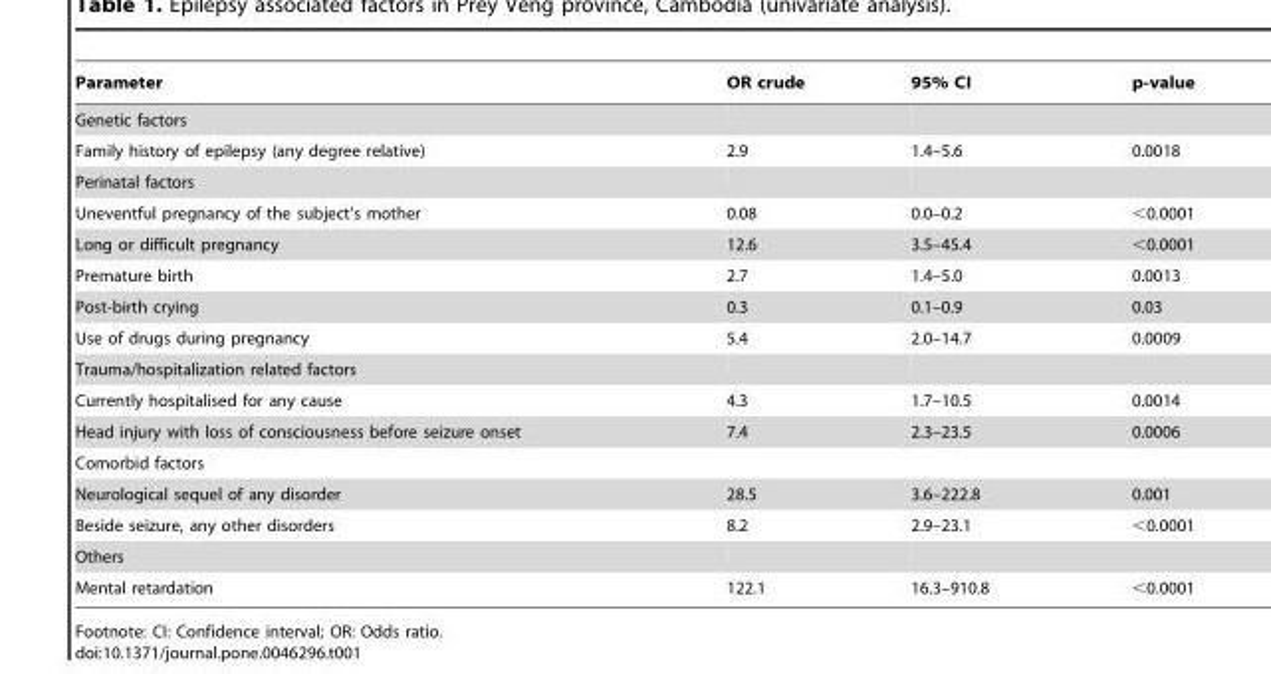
<table><thead><tr><td>Parameter</td><td>OR crude</td><td>95% CI</td><td>p-value</td></tr></thead><tbody><tr><td colspan="4">Genetic factors</td></tr><tr><td>Family history of epilepsy (any degree relative)</td><td>2.9</td><td>1.4–5.6</td><td>0.0018</td></tr><tr><td colspan="4">Perinatal factors</td></tr><tr><td>Uneventful pregnancy of the subject’s mother</td><td>0.08</td><td>0.0–0.2</td><td>&lt;0.0001</td></tr><tr><td>Long or difficult pregnancy</td><td>12.6</td><td>3.5–45.4</td><td>&lt;0.0001</td></tr><tr><td>Premature birth</td><td>2.7</td><td>1.4–5.0</td><td>0.0013</td></tr><tr><td>Post-birth crying</td><td>0.3</td><td>0.1–0.9</td><td>0.03</td></tr><tr><td>Use of drugs during pregnancy</td><td>5.4</td><td>2.0–14.7</td><td>0.0009</td></tr><tr><td colspan="4">Trauma/hospitalization related factors</td></tr><tr><td>Currently hospitalised for any cause</td><td>4.3</td><td>1.7–10.5</td><td>0.0014</td></tr><tr><td>Head injury with loss of consciousness before seizure onset</td><td>7.4</td><td>2.3–23.5</td><td>0.0006</td></tr><tr><td colspan="4">Comorbid factors</td></tr><tr><td>Neurological sequel of any disorder</td><td>28.5</td><td>3.6–222.8</td><td>0.001</td></tr><tr><td>Beside seizure, any other disorders</td><td>8.2</td><td>2.9–23.1</td><td>&lt;0.0001</td></tr><tr><td colspan="4">Others</td></tr><tr><td>Mental retardation</td><td>122.1</td><td>16.3–910.8</td><td>&lt;0.0001</td></tr></tbody></table>